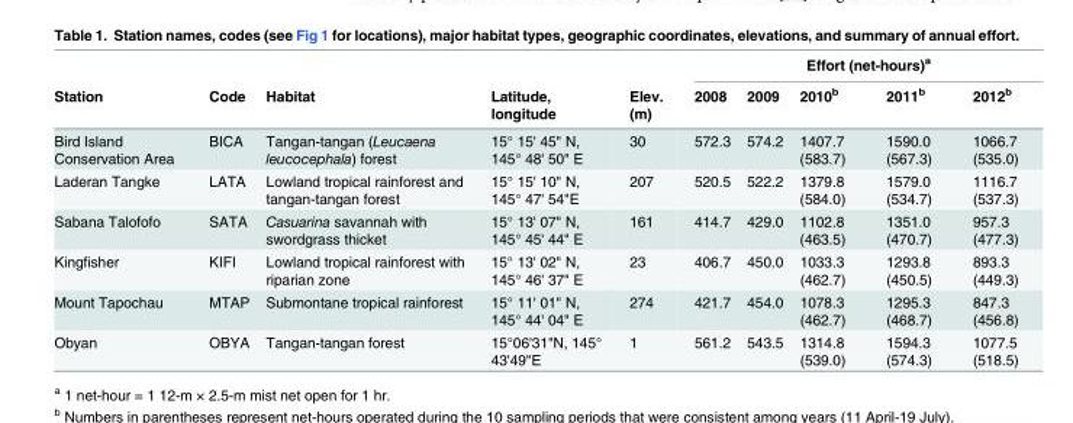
<table><thead><tr><td rowspan="2">Station</td><td rowspan="2">Code</td><td rowspan="2">Habitat</td><td rowspan="2">Latitude, longitude</td><td rowspan="2">Elev. (m)</td><td colspan="5">Effort (net-hours)<sup>a</sup></td></tr><tr><td>2008</td><td>2009</td><td>2010<sup>b</sup></td><td>2011<sup>b</sup></td><td>2012<sup>b</sup></td></tr></thead><tbody><tr><td>Bird Island Conservation Area</td><td>BICA</td><td>Tangan-tangan (Leucaena leucocephala) forest</td><td>15° 15&#x27; 45&quot; N, 145° 48&#x27; 50&quot; E</td><td>30</td><td>572.3</td><td>574.2</td><td>1407.7 (583.7)</td><td>1590.0 (567.3)</td><td>1066.7 (535.0)</td></tr><tr><td>Laderan Tangke</td><td>LATA</td><td>Lowland tropical rainforest and tangan-tangan forest</td><td>15° 15&#x27; 10&quot; N, 145° 47&#x27; 54&quot;E</td><td>207</td><td>520.5</td><td>522.2</td><td>1379.8 (584.0)</td><td>1579.0 (534.7)</td><td>1116.7 (537.3)</td></tr><tr><td>Sabana Talofofo</td><td>SATA</td><td>Casuarina savannah with swordgrass thicket</td><td>15° 13&#x27; 07&quot; N, 145° 45&#x27; 44&quot; E</td><td>161</td><td>414.7</td><td>429.0</td><td>1102.8 (463.5)</td><td>1351.0 (470.7)</td><td>957.3 (477.3)</td></tr><tr><td>Kingfisher</td><td>KIFI</td><td>Lowland tropical rainforest with riparian zone</td><td>15° 13&#x27; 02&quot; N, 145° 46&#x27; 37&quot; E</td><td>23</td><td>406.7</td><td>450.0</td><td>1033.3 (462.7)</td><td>1293.8 (450.5)</td><td>893.3 (449.3)</td></tr><tr><td>Mount Tapochau</td><td>MTAP</td><td>Submontane tropical rainforest</td><td>15° 11&#x27; 01&quot; N, 145° 44&#x27; 04&quot; E</td><td>274</td><td>421.7</td><td>454.0</td><td>1078.3 (462.7)</td><td>1295.3 (468.7)</td><td>847.3 (456.8)</td></tr><tr><td>Obyan</td><td>OBYA</td><td>Tangan-tangan forest</td><td>15°06&#x27;31&quot;N, 145° 43&#x27;49&quot;E</td><td>1</td><td>561.2</td><td>543.5</td><td>1314.8 (539.0)</td><td>1594.3 (574.3)</td><td>1077.5 (518.5)</td></tr></tbody></table>